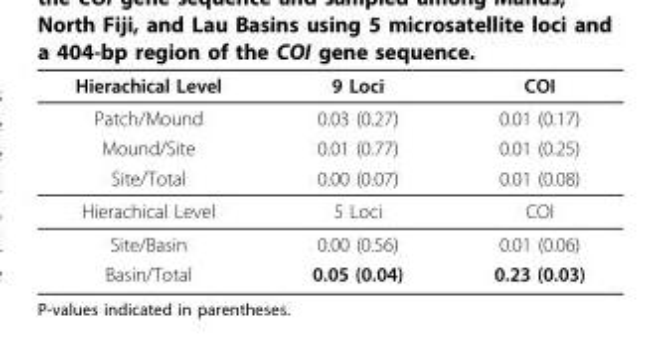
<table><thead><tr><td>Hierachical Level</td><td>9 Loci</td><td>COI</td></tr></thead><tbody><tr><td>Patch/Mound</td><td>0.03 (0.27)</td><td>0.01 (0.17)</td></tr><tr><td>Mound/Site</td><td>0.01 (0.77)</td><td>0.01 (0.25)</td></tr><tr><td>Site/Total</td><td>0.00 (0.07)</td><td>0.01 (0.08)</td></tr><tr><td>Hierachical Level</td><td>5 Loci</td><td>COI</td></tr><tr><td>Site/Basin</td><td>0.00 (0.56)</td><td>0.01 (0.06)</td></tr><tr><td>Basin/Total</td><td>0.05 (0.04)</td><td>0.23 (0.03)</td></tr></tbody></table>